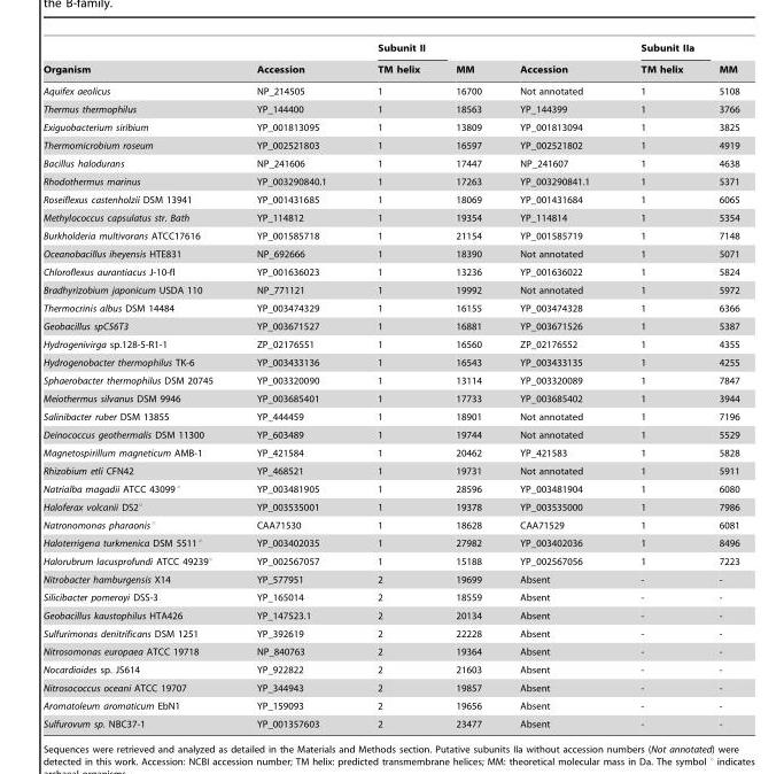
<table><thead><tr><td rowspan="2">Organism</td><td rowspan="2">Accession</td><td rowspan="2">Subunit II TM helix</td><td rowspan="2">MM</td><td rowspan="2">Accession</td><td rowspan="2">Subunit IIa TM helix</td><td rowspan="2">MM</td></tr><tr></tr></thead><tbody><tr><td>Aquifex aeolicus</td><td>NP_214505</td><td>1</td><td>16700</td><td>Not annotated</td><td>1</td><td>5108</td></tr><tr><td>Thermus thermophilus</td><td>YP_144400</td><td>1</td><td>18563</td><td>YP_144399</td><td>1</td><td>3766</td></tr><tr><td>Exiguobacterium siribium</td><td>YP_001813095</td><td>1</td><td>13809</td><td>YP_001813094</td><td>1</td><td>3825</td></tr><tr><td>Thermomicrobium roseum</td><td>YP_002521803</td><td>1</td><td>16597</td><td>YP_002521802</td><td>1</td><td>4919</td></tr><tr><td>Bacillus halodurans</td><td>NP_241606</td><td>1</td><td>17447</td><td>NP_241607</td><td>1</td><td>4638</td></tr><tr><td>Rhodothermus marinus</td><td>YP_003290840.1</td><td>1</td><td>17263</td><td>YP_003290841.1</td><td>1</td><td>5371</td></tr><tr><td>Roseiflexus castenholzii DSM 13941</td><td>YP_001431685</td><td>1</td><td>18069</td><td>YP_001431684</td><td>1</td><td>6065</td></tr><tr><td>Methylococcus capsulatus str. Bath</td><td>YP_114812</td><td>1</td><td>19354</td><td>YP_114814</td><td>1</td><td>5354</td></tr><tr><td>Burkholderia multivorans ATCC17616</td><td>YP_001585718</td><td>1</td><td>21154</td><td>YP_001585719</td><td>1</td><td>7148</td></tr><tr><td>Oceanobacillus iheyensis HTE831</td><td>NP_692666</td><td>1</td><td>18390</td><td>Not annotated</td><td>1</td><td>5071</td></tr><tr><td>Chloroflexus aurantiacus J-10-fl</td><td>YP_001636023</td><td>1</td><td>13236</td><td>YP_001636022</td><td>1</td><td>5824</td></tr><tr><td>Bradhyrizobium japonicum USDA 110</td><td>NP_771121</td><td>1</td><td>19992</td><td>Not annotated</td><td>1</td><td>5972</td></tr><tr><td>Thermocrinis albus DSM 14484</td><td>YP_003474329</td><td>1</td><td>16155</td><td>YP_003474328</td><td>1</td><td>6366</td></tr><tr><td>Geobacillus spC56T3</td><td>YP_003671527</td><td>1</td><td>16881</td><td>YP_003671526</td><td>1</td><td>5387</td></tr><tr><td>Hydrogenivirga sp.128-5-R1-1</td><td>ZP_02176551</td><td>1</td><td>16560</td><td>ZP_02176552</td><td>1</td><td>4355</td></tr><tr><td>Hydrogenobacter thermophilus TK-6</td><td>YP_003433136</td><td>1</td><td>16543</td><td>YP_003433135</td><td>1</td><td>4255</td></tr><tr><td>Sphaerobacter thermophilus DSM 20745</td><td>YP_003320090</td><td>1</td><td>13114</td><td>YP_003320089</td><td>1</td><td>7847</td></tr><tr><td>Meiothermus silvanus DSM 9946</td><td>YP_003685401</td><td>1</td><td>17733</td><td>YP_003685402</td><td>1</td><td>3944</td></tr><tr><td>Salinibacter ruber DSM 13855</td><td>YP_444459</td><td>1</td><td>18901</td><td>Not annotated</td><td>1</td><td>7196</td></tr><tr><td>Deinococcus geothermalis DSM 11300</td><td>YP_603489</td><td>1</td><td>19744</td><td>Not annotated</td><td>1</td><td>5529</td></tr><tr><td>Magnetospirillum magneticum AMB-1</td><td>YP_421584</td><td>1</td><td>20462</td><td>YP_421583</td><td>1</td><td>5828</td></tr><tr><td>Rhizobium etli CFN42</td><td>YP_468521</td><td>1</td><td>19731</td><td>Not annotated</td><td>1</td><td>5911</td></tr><tr><td>Natrialba magadii ATCC 43099°</td><td>YP_003481905</td><td>1</td><td>28596</td><td>YP_003481904</td><td>1</td><td>6080</td></tr><tr><td>Haloferax volcanii DS2°</td><td>YP_003535001</td><td>1</td><td>19378</td><td>YP_003535000</td><td>1</td><td>7986</td></tr><tr><td>Natronomonas pharaonis°</td><td>CAA71530</td><td>1</td><td>18628</td><td>CAA71529</td><td>1</td><td>6081</td></tr><tr><td>Haloterrigena turkmenica DSM 5511°</td><td>YP_003402035</td><td>1</td><td>27982</td><td>YP_003402036</td><td>1</td><td>8496</td></tr><tr><td>Halorubrum lacusprofundi ATCC 49239°</td><td>YP_002567057</td><td>1</td><td>15188</td><td>YP_002567056</td><td>1</td><td>7223</td></tr><tr><td>Nitrobacter hamburgensis X14</td><td>YP_577951</td><td>2</td><td>19699</td><td>Absent</td><td>-</td><td>-</td></tr><tr><td>Silicibacter pomeroyi DSS-3</td><td>YP_165014</td><td>2</td><td>18559</td><td>Absent</td><td>-</td><td>-</td></tr><tr><td>Geobacillus kaustophilus HTA426</td><td>YP_147523.1</td><td>2</td><td>20134</td><td>Absent</td><td>-</td><td>-</td></tr><tr><td>Sulfurimonas denitrificans DSM 1251</td><td>YP_392619</td><td>2</td><td>22228</td><td>Absent</td><td>-</td><td>-</td></tr><tr><td>Nitrosomonas europaea ATCC 19718</td><td>NP_840763</td><td>2</td><td>19364</td><td>Absent</td><td>-</td><td>-</td></tr><tr><td>Nocardioides sp. JS614</td><td>YP_922822</td><td>2</td><td>21603</td><td>Absent</td><td>-</td><td>-</td></tr><tr><td>Nitrosococcus oceani ATCC 19707</td><td>YP_344943</td><td>2</td><td>19857</td><td>Absent</td><td>-</td><td>-</td></tr><tr><td>Aromatoleum aromaticum EbN1</td><td>YP_159093</td><td>2</td><td>19656</td><td>Absent</td><td>-</td><td>-</td></tr><tr><td>Sulfurovum sp. NBC37-1</td><td>YP_001357603</td><td>2</td><td>23477</td><td>Absent</td><td>-</td><td>-</td></tr></tbody></table>